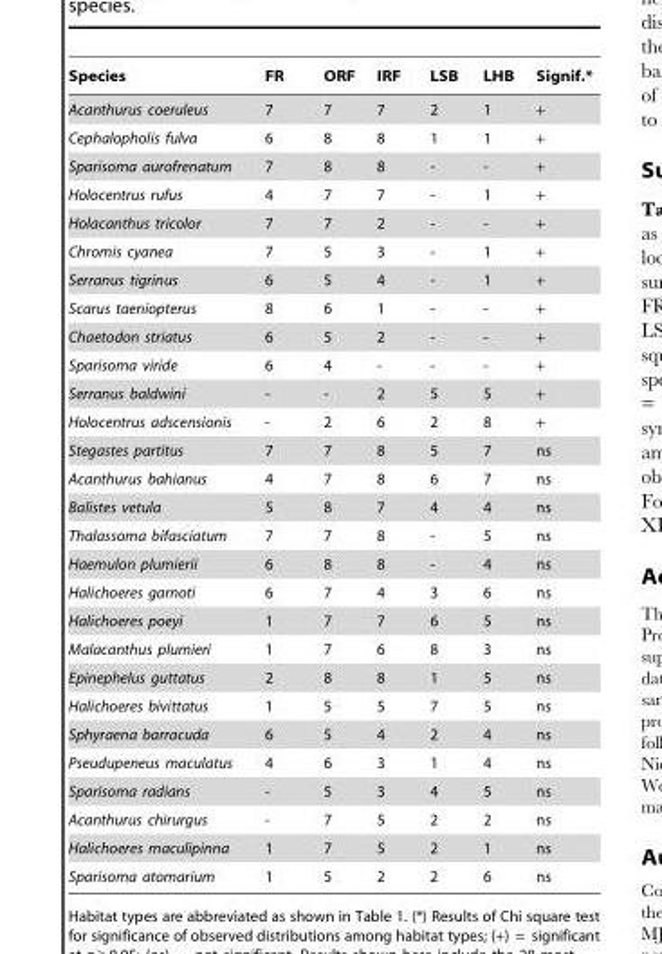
<table><thead><tr><td>Species</td><td>FR</td><td>ORF</td><td>IRF</td><td>LSB</td><td>LHB</td><td>Signif.*</td></tr></thead><tbody><tr><td>Acanthurus coeruleus</td><td>7</td><td>7</td><td>7</td><td>2</td><td>1</td><td>+</td></tr><tr><td>Cephalopholis fulva</td><td>6</td><td>8</td><td>8</td><td>1</td><td>1</td><td>+</td></tr><tr><td>Sparisoma aurofrenatum</td><td>7</td><td>8</td><td>8</td><td>-</td><td>-</td><td>+</td></tr><tr><td>Holocentrus rufus</td><td>4</td><td>7</td><td>7</td><td>-</td><td>1</td><td>+</td></tr><tr><td>Holacanthus tricolor</td><td>7</td><td>7</td><td>2</td><td>-</td><td>-</td><td>+</td></tr><tr><td>Chromis cyanea</td><td>7</td><td>5</td><td>3</td><td>-</td><td>1</td><td>+</td></tr><tr><td>Serranus tigrinus</td><td>6</td><td>5</td><td>4</td><td>-</td><td>1</td><td>+</td></tr><tr><td>Scarus taeniopterus</td><td>8</td><td>6</td><td>1</td><td>-</td><td>-</td><td>+</td></tr><tr><td>Chaetodon striatus</td><td>6</td><td>5</td><td>2</td><td>-</td><td>-</td><td>+</td></tr><tr><td>Sparisoma viride</td><td>6</td><td>4</td><td>-</td><td>-</td><td>-</td><td>+</td></tr><tr><td>Serranus baldwini</td><td>-</td><td>-</td><td>2</td><td>5</td><td>5</td><td>+</td></tr><tr><td>Holocentrus adscensionis</td><td>-</td><td>2</td><td>6</td><td>2</td><td>8</td><td>+</td></tr><tr><td>Stegastes partitus</td><td>7</td><td>7</td><td>8</td><td>5</td><td>7</td><td>ns</td></tr><tr><td>Acanthurus bahianus</td><td>4</td><td>7</td><td>8</td><td>6</td><td>7</td><td>ns</td></tr><tr><td>Balistes vetula</td><td>5</td><td>8</td><td>7</td><td>4</td><td>4</td><td>ns</td></tr><tr><td>Thalassoma bifasciatum</td><td>7</td><td>7</td><td>8</td><td>-</td><td>5</td><td>ns</td></tr><tr><td>Haemulon plumierii</td><td>6</td><td>8</td><td>8</td><td>-</td><td>4</td><td>ns</td></tr><tr><td>Halichoeres garnoti</td><td>6</td><td>7</td><td>4</td><td>3</td><td>6</td><td>ns</td></tr><tr><td>Halichoeres poeyi</td><td>1</td><td>7</td><td>7</td><td>6</td><td>5</td><td>ns</td></tr><tr><td>Malacanthus plumieri</td><td>1</td><td>7</td><td>6</td><td>8</td><td>3</td><td>ns</td></tr><tr><td>Epinephelus guttatus</td><td>2</td><td>8</td><td>8</td><td>1</td><td>5</td><td>ns</td></tr><tr><td>Halichoeres bivittatus</td><td>1</td><td>5</td><td>5</td><td>7</td><td>5</td><td>ns</td></tr><tr><td>Sphyraena barracuda</td><td>6</td><td>5</td><td>4</td><td>2</td><td>4</td><td>ns</td></tr><tr><td>Pseudupeneus maculatus</td><td>4</td><td>6</td><td>3</td><td>1</td><td>4</td><td>ns</td></tr><tr><td>Sparisoma radians</td><td>-</td><td>5</td><td>3</td><td>4</td><td>5</td><td>ns</td></tr><tr><td>Acanthurus chirurgus</td><td>-</td><td>7</td><td>5</td><td>2</td><td>2</td><td>ns</td></tr><tr><td>Halichoeres maculipinna</td><td>1</td><td>7</td><td>5</td><td>2</td><td>1</td><td>ns</td></tr><tr><td>Sparisoma atomarium</td><td>1</td><td>5</td><td>2</td><td>2</td><td>6</td><td>ns</td></tr></tbody></table>